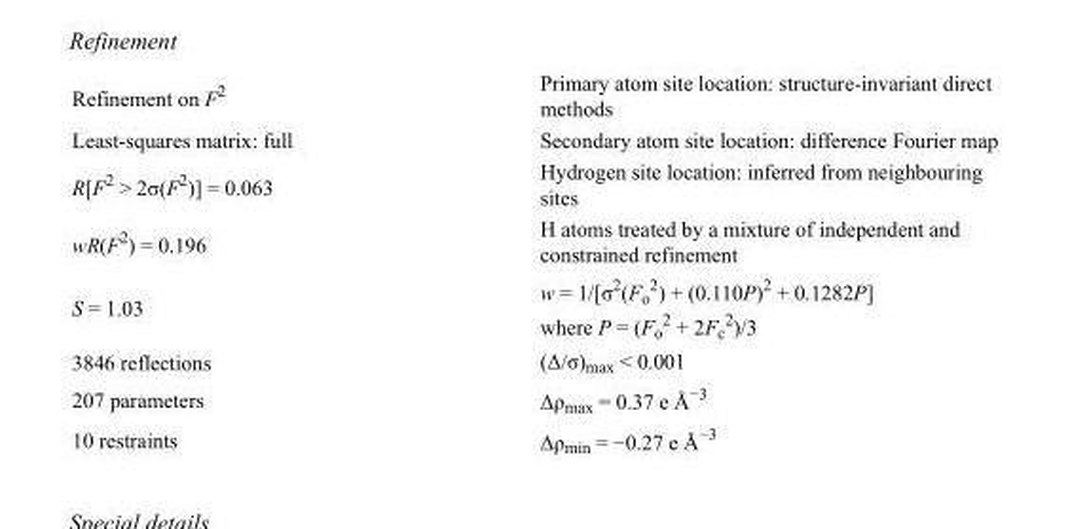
<table><tbody><tr><td>Refinement on F<sup>2</sup></td><td>Primary atom site location: structure-invariant direct methods</td></tr><tr><td>Least-squares matrix: full</td><td>Secondary atom site location: difference Fourier map</td></tr><tr><td>R[F<sup>2</sup> &gt; 2σ(F<sup>2</sup>)] = 0.063</td><td>Hydrogen site location: inferred from neighbouring sites</td></tr><tr><td>wR(F<sup>2</sup>) = 0.196</td><td>H atoms treated by a mixture of independent and constrained refinement</td></tr><tr><td>S = 1.03</td><td>w = 1/[σ<sup>2</sup>(F<sub>o</sub> <sup>2</sup>) + (0.110P)<sup>2</sup> + 0.1282P] where P = (F<sub>o</sub> <sup>2</sup> + 2F<sub>c</sub> <sup>2</sup>)/3</td></tr><tr><td>3846 reflections</td><td>(Δ/σ)<sub>max</sub> &lt; 0.001</td></tr><tr><td>207 parameters</td><td>Δρ<sub>max</sub> = 0.37 e Å<sup>−3</sup></td></tr><tr><td>10 restraints</td><td>Δρ<sub>min</sub> = −0.27 e Å<sup>−3</sup></td></tr></tbody></table>